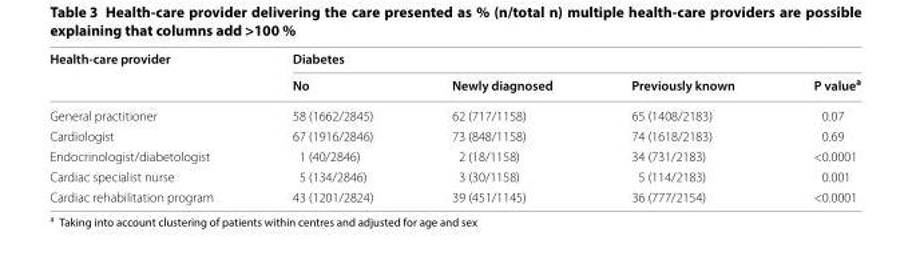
<table><thead><tr><td rowspan="2">Health-care provider</td><td colspan="4">Diabetes</td></tr><tr><td>No</td><td>Newly diagnosed</td><td>Previously known</td><td>P value<sup>a</sup></td></tr></thead><tbody><tr><td>General practitioner</td><td>58 (1662/2845)</td><td>62 (717/1158)</td><td>65 (1408/2183)</td><td>0.07</td></tr><tr><td>Cardiologist</td><td>67 (1916/2846)</td><td>73 (848/1158)</td><td>74 (1618/2183)</td><td>0.69</td></tr><tr><td>Endocrinologist/diabetologist</td><td>1 (40/2846)</td><td>2 (18/1158)</td><td>34 (731/2183)</td><td>&lt;0.0001</td></tr><tr><td>Cardiac specialist nurse</td><td>5 (134/2846)</td><td>3 (30/1158)</td><td>5 (114/2183)</td><td>0.001</td></tr><tr><td>Cardiac rehabilitation program</td><td>43 (1201/2824)</td><td>39 (451/1145)</td><td>36 (777/2154)</td><td>&lt;0.0001</td></tr></tbody></table>